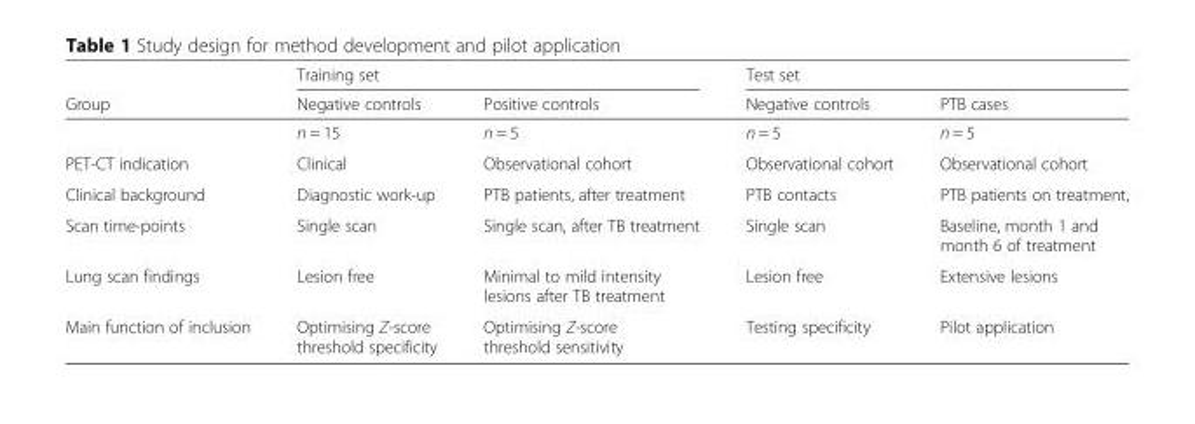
<table><thead><tr><td rowspan="2">Group</td><td colspan="2">Training set</td><td colspan="2">Test set</td></tr><tr><td>Negative controls</td><td>Positive controls</td><td>Negative controls</td><td>PTB cases</td></tr></thead><tbody><tr><td></td><td>n = 15</td><td>n = 5</td><td>n = 5</td><td>n = 5</td></tr><tr><td>PET-CT indication</td><td>Clinical</td><td>Observational cohort</td><td>Observational cohort</td><td>Observational cohort</td></tr><tr><td>Clinical background</td><td>Diagnostic work-up</td><td>PTB patients, after treatment</td><td>PTB contacts</td><td>PTB patients on treatment,</td></tr><tr><td>Scan time-points</td><td>Single scan</td><td>Single scan, after TB treatment</td><td>Single scan</td><td>Baseline, month 1 and month 6 of treatment</td></tr><tr><td>Lung scan findings</td><td>Lesion free</td><td>Minimal to mild intensity lesions after TB treatment</td><td>Lesion free</td><td>Extensive lesions</td></tr><tr><td>Main function of inclusion</td><td>Optimising Z-score threshold specificity</td><td>Optimising Z-score threshold sensitivity</td><td>Testing specificity</td><td>Pilot application</td></tr></tbody></table>